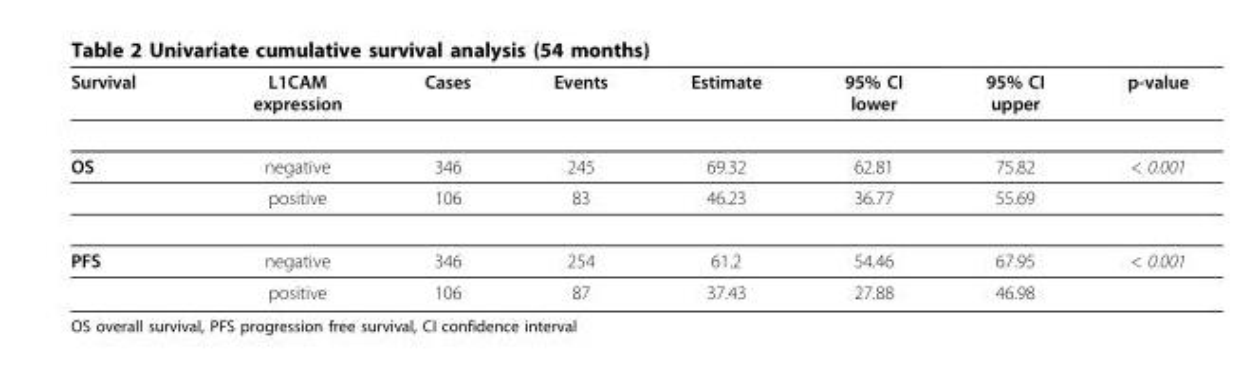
<table><thead><tr><td>Survival</td><td>L1CAM expression</td><td>Cases</td><td>Events</td><td>Estimate</td><td>95% CI lower</td><td>95% CI upper</td><td>p-value</td></tr></thead><tbody><tr><td rowspan="2">OS</td><td>negative</td><td>346</td><td>245</td><td>69.32</td><td>62.81</td><td>75.82</td><td>&lt; 0.001</td></tr><tr><td>positive</td><td>106</td><td>83</td><td>46.23</td><td>36.77</td><td>55.69</td><td></td></tr><tr><td rowspan="2">PFS</td><td>negative</td><td>346</td><td>254</td><td>61.2</td><td>54.46</td><td>67.95</td><td>&lt; 0.001</td></tr><tr><td>positive</td><td>106</td><td>87</td><td>37.43</td><td>27.88</td><td>46.98</td><td></td></tr></tbody></table>